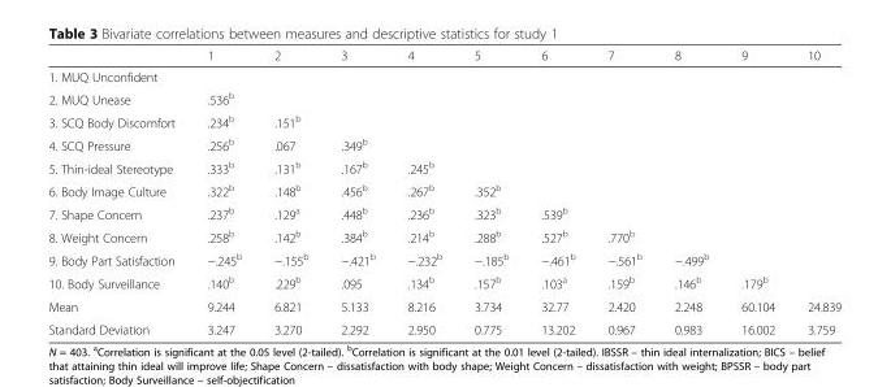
<table><thead><tr><td></td><td>1</td><td>2</td><td>3</td><td>4</td><td>5</td><td>6</td><td>7</td><td>8</td><td>9</td><td>10</td></tr></thead><tbody><tr><td colspan="11">1. MUQ Unconfident</td></tr><tr><td>2. MUQ Unease</td><td>.536<sup>b</sup></td><td></td><td></td><td></td><td></td><td></td><td></td><td></td><td></td><td></td></tr><tr><td>3. SCQ Body Discomfort</td><td>.234<sup>b</sup></td><td>.151<sup>b</sup></td><td></td><td></td><td></td><td></td><td></td><td></td><td></td><td></td></tr><tr><td>4. SCQ Pressure</td><td>.256<sup>b</sup></td><td>.067</td><td>.349<sup>b</sup></td><td></td><td></td><td></td><td></td><td></td><td></td><td></td></tr><tr><td>5. Thin-ideal Stereotype</td><td>.333<sup>b</sup></td><td>.131<sup>b</sup></td><td>.167<sup>b</sup></td><td>.245<sup>b</sup></td><td></td><td></td><td></td><td></td><td></td><td></td></tr><tr><td>6. Body Image Culture</td><td>.322<sup>b</sup></td><td>.148<sup>b</sup></td><td>.456<sup>b</sup></td><td>.267<sup>b</sup></td><td>.352<sup>b</sup></td><td></td><td></td><td></td><td></td><td></td></tr><tr><td>7. Shape Concern</td><td>.237<sup>b</sup></td><td>.129<sup>a</sup></td><td>.448<sup>b</sup></td><td>.236<sup>b</sup></td><td>.323<sup>b</sup></td><td>.539<sup>b</sup></td><td></td><td></td><td></td><td></td></tr><tr><td>8. Weight Concern</td><td>.258<sup>b</sup></td><td>.142<sup>b</sup></td><td>.384<sup>b</sup></td><td>.214<sup>b</sup></td><td>.288<sup>b</sup></td><td>.527<sup>b</sup></td><td>.770<sup>b</sup></td><td></td><td></td><td></td></tr><tr><td>9. Body Part Satisfaction</td><td>−.245<sup>b</sup></td><td>−.155<sup>b</sup></td><td>−.421<sup>b</sup></td><td>−.232<sup>b</sup></td><td>−.185<sup>b</sup></td><td>−.461<sup>b</sup></td><td>−.561<sup>b</sup></td><td>−.499<sup>b</sup></td><td></td><td></td></tr><tr><td>10. Body Surveillance</td><td>.140<sup>b</sup></td><td>.229<sup>b</sup></td><td>.095</td><td>.134<sup>b</sup></td><td>.157<sup>b</sup></td><td>.103<sup>a</sup></td><td>.159<sup>b</sup></td><td>.146<sup>b</sup></td><td>.179<sup>b</sup></td><td></td></tr><tr><td>Mean</td><td>9.244</td><td>6.821</td><td>5.133</td><td>8.216</td><td>3.734</td><td>32.77</td><td>2.420</td><td>2.248</td><td>60.104</td><td>24.839</td></tr><tr><td>Standard Deviation</td><td>3.247</td><td>3.270</td><td>2.292</td><td>2.950</td><td>0.775</td><td>13.202</td><td>0.967</td><td>0.983</td><td>16.002</td><td>3.759</td></tr></tbody></table>